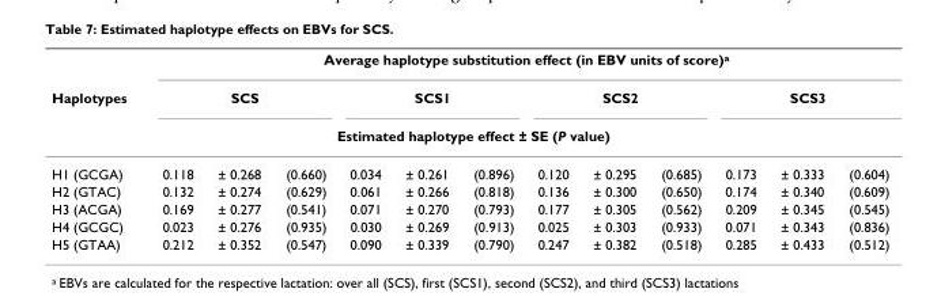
<table><thead><tr><td rowspan="2">Haplotypes</td><td colspan="12">Average haplotype substitution effect (in EBV units of score)<sup>a</sup></td></tr><tr><td colspan="3">SCS</td><td colspan="3">SCS1</td><td colspan="3">SCS2</td><td colspan="3">SCS3</td></tr><tr><td colspan="13">Estimated haplotype effect ± SE (P value)</td></tr><tr><td>H1 (GCGA)</td><td>0.118</td><td>± 0.268</td><td>(0.660)</td><td>0.034</td><td>± 0.261</td><td>(0.896)</td><td>0.120</td><td>± 0.295</td><td>(0.685)</td><td>0.173</td><td>± 0.333</td><td>(0.604)</td></tr></thead><tbody><tr><td>H2 (GTAC)</td><td>0.132</td><td>± 0.274</td><td>(0.629)</td><td>0.061</td><td>± 0.266</td><td>(0.818)</td><td>0.136</td><td>± 0.300</td><td>(0.650)</td><td>0.174</td><td>± 0.340</td><td>(0.609)</td></tr><tr><td>H3 (ACGA)</td><td>0.169</td><td>± 0.277</td><td>(0.541)</td><td>0.071</td><td>± 0.270</td><td>(0.793)</td><td>0.177</td><td>± 0.305</td><td>(0.562)</td><td>0.209</td><td>± 0.345</td><td>(0.545)</td></tr><tr><td>H4 (GCGC)</td><td>0.023</td><td>± 0.276</td><td>(0.935)</td><td>0.030</td><td>± 0.269</td><td>(0.913)</td><td>0.025</td><td>± 0.303</td><td>(0.933)</td><td>0.071</td><td>± 0.343</td><td>(0.836)</td></tr><tr><td>H5 (GTAA)</td><td>0.212</td><td>± 0.352</td><td>(0.547)</td><td>0.090</td><td>± 0.339</td><td>(0.790)</td><td>0.247</td><td>± 0.382</td><td>(0.518)</td><td>0.285</td><td>± 0.433</td><td>(0.512)</td></tr></tbody></table>